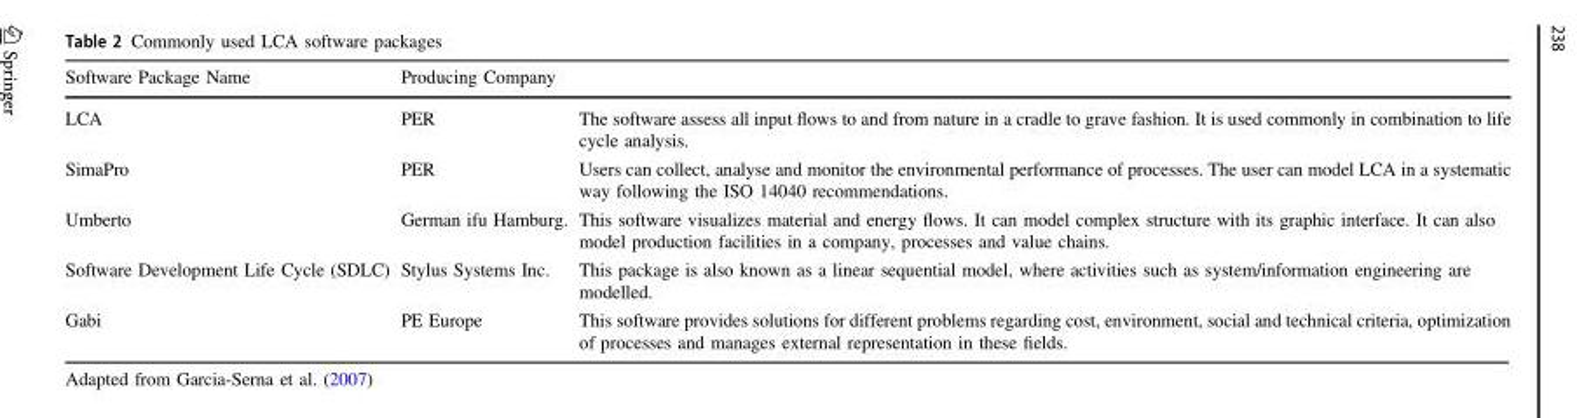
<table><thead><tr><td>Software Package Name</td><td>Producing Company</td><td></td></tr></thead><tbody><tr><td>LCA</td><td>PER</td><td>The software assess all input flows to and from nature in a cradle to grave fashion. It is used commonly in combination to life cycle analysis.</td></tr><tr><td>SimaPro</td><td>PER</td><td>Users can collect, analyse and monitor the environmental performance of processes. The user can model LCA in a systematic way following the ISO 14040 recommendations.</td></tr><tr><td>Umberto</td><td>German ifu Hamburg.</td><td>This software visualizes material and energy flows. It can model complex structure with its graphic interface. It can also model production facilities in a company, processes and value chains.</td></tr><tr><td>Software Development Life Cycle (SDLC)</td><td>Stylus Systems Inc.</td><td>This package is also known as a linear sequential model, where activities such as system/information engineering are modelled.</td></tr><tr><td>Gabi</td><td>PE Europe</td><td>This software provides solutions for different problems regarding cost, environment, social and technical criteria, optimization of processes and manages external representation in these fields.</td></tr></tbody></table>